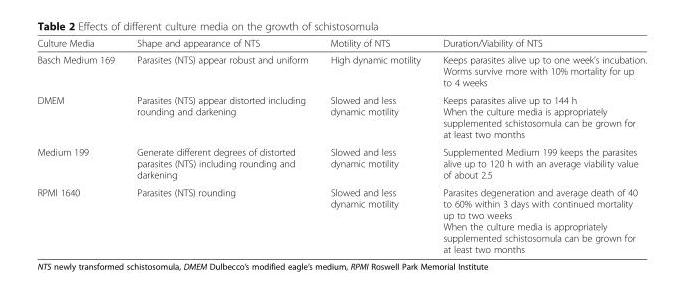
<table><thead><tr><td>Culture Media</td><td>Shape and appearance of NTS</td><td>Motility of NTS</td><td>Duration/Viability of NTS</td></tr></thead><tbody><tr><td>Basch Medium 169</td><td>Parasites (NTS) appear robust and uniform</td><td>High dynamic motility</td><td>Keeps parasites alive up to one week’s incubation. Worms survive more with 10% mortality for up to 4 weeks</td></tr><tr><td>DMEM</td><td>Parasites (NTS) appear distorted including rounding and darkening</td><td>Slowed and less dynamic motility</td><td>Keeps parasites alive up to 144 h When the culture media is appropriately supplemented schistosomula can be grown for at least two months</td></tr><tr><td>Medium 199</td><td>Generate different degrees of distorted parasites (NTS) including rounding and darkening</td><td>Slowed and less dynamic motility</td><td>Supplemented Medium 199 keeps the parasites alive up to 120 h with an average viability value of about 2.5</td></tr><tr><td>RPMI 1640</td><td>Parasites (NTS) rounding</td><td>Slowed and less dynamic motility</td><td>Parasites degeneration and average death of 40 to 60% within 3 days with continued mortality up to two weeks When the culture media is appropriately supplemented schistosomula can be grown for at least two months</td></tr></tbody></table>